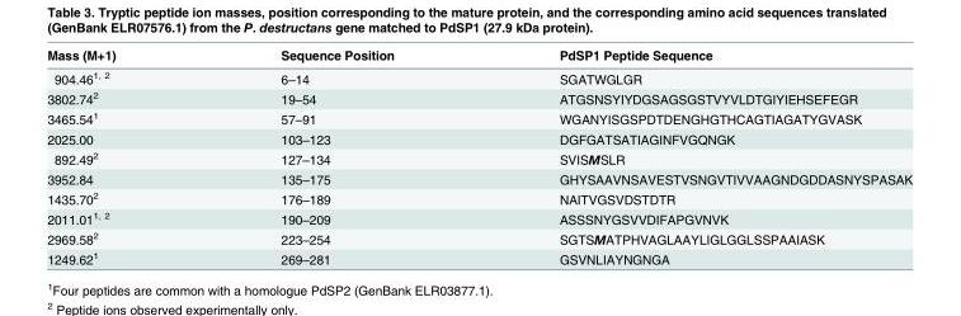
<table><thead><tr><td>Mass (M+1)</td><td>Sequence Position</td><td>PdSP1 Peptide Sequence</td></tr></thead><tbody><tr><td>904.46<sup>1, 2</sup></td><td>6–14</td><td>SGATWGLGR</td></tr><tr><td>3802.74<sup>2</sup></td><td>19–54</td><td>ATGSNSYIYDGSAGSGSTVYVLDTGIYIEHSEFEGR</td></tr><tr><td>3465.54<sup>1</sup></td><td>57–91</td><td>WGANYISGSPDTDENGHGTHCAGTIAGATYGVASK</td></tr><tr><td>2025.00</td><td>103–123</td><td>DGFGATSATIAGINFVGQNGK</td></tr><tr><td>892.49<sup>2</sup></td><td>127–134</td><td>SVISMSLR</td></tr><tr><td>3952.84</td><td>135–175</td><td>GHYSAAVNSAVESTVSNGVTIVVAAGNDGDDASNYSPASAK</td></tr><tr><td>1435.70<sup>2</sup></td><td>176–189</td><td>NAITVGSVDSTDTR</td></tr><tr><td>2011.01<sup>1, 2</sup></td><td>190–209</td><td>ASSSNYGSVVDIFAPGVNVK</td></tr><tr><td>2969.58<sup>2</sup></td><td>223–254</td><td>SGTSMATPHVAGLAAYLIGLGGLSSPAAIASK</td></tr><tr><td>1249.62<sup>1</sup></td><td>269–281</td><td>GSVNLIAYNGNGA</td></tr></tbody></table>